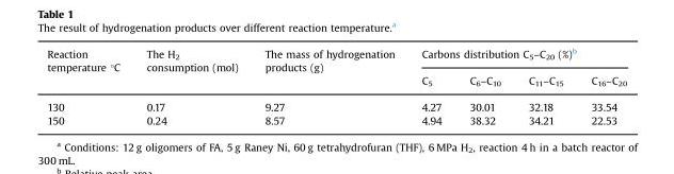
<table><thead><tr><td rowspan="2">Reaction temperature °C</td><td rowspan="2">The H<sub>2</sub> consumption (mol)</td><td rowspan="2">The mass of hydrogenation products (g)</td><td colspan="4">Carbons distribution C<sub>5</sub>–C<sub>20</sub> (%)<sup>b</sup></td></tr><tr><td>C<sub>5</sub></td><td>C<sub>6</sub>–C<sub>10</sub></td><td>C<sub>11</sub>–C<sub>15</sub></td><td>C<sub>16</sub>–C<sub>20</sub></td></tr></thead><tbody><tr><td>130</td><td>0.17</td><td>9.27</td><td>4.27</td><td>30.01</td><td>32.18</td><td>33.54</td></tr><tr><td>150</td><td>0.24</td><td>8.57</td><td>4.94</td><td>38.32</td><td>34.21</td><td>22.53</td></tr></tbody></table>